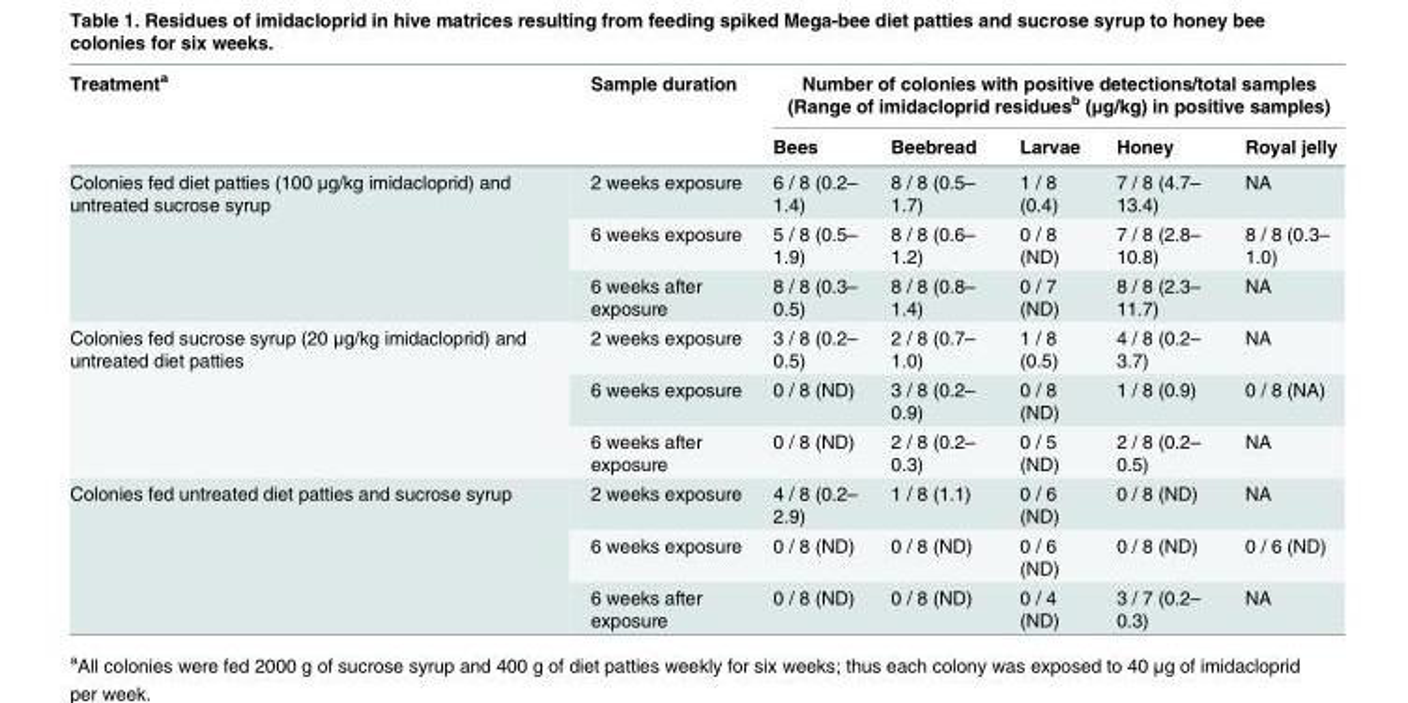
<table><thead><tr><td rowspan="2">Treatment<sup>a</sup></td><td rowspan="2">Sample duration</td><td colspan="5">Number of colonies with positive detections/total samples (Range of imidacloprid residues<sup>b</sup> (μg/kg) in positive samples)</td></tr><tr><td>Bees</td><td>Beebread</td><td>Larvae</td><td>Honey</td><td>Royal jelly</td></tr></thead><tbody><tr><td rowspan="3">Colonies fed diet patties (100 μg/kg imidacloprid) and untreated sucrose syrup</td><td>2 weeks exposure</td><td>6 / 8 (0.2– 1.4)</td><td>8 / 8 (0.5– 1.7)</td><td>1 / 8 (0.4)</td><td>7 / 8 (4.7– 13.4)</td><td>NA</td></tr><tr><td>6 weeks exposure</td><td>5 / 8 (0.5– 1.9)</td><td>8 / 8 (0.6– 1.2)</td><td>0 / 8 (ND)</td><td>7 / 8 (2.8– 10.8)</td><td>8 / 8 (0.3– 1.0)</td></tr><tr><td>6 weeks after exposure</td><td>8 / 8 (0.3– 0.5)</td><td>8 / 8 (0.8– 1.4)</td><td>0 / 7 (ND)</td><td>8 / 8 (2.3– 11.7)</td><td>NA</td></tr><tr><td rowspan="3">Colonies fed sucrose syrup (20 μg/kg imidacloprid) and untreated diet patties</td><td>2 weeks exposure</td><td>3 / 8 (0.2– 0.5)</td><td>2 / 8 (0.7– 1.0)</td><td>1 / 8 (0.5)</td><td>4 / 8 (0.2– 3.7)</td><td>NA</td></tr><tr><td>6 weeks exposure</td><td>0 / 8 (ND)</td><td>3 / 8 (0.2– 0.9)</td><td>0 / 8 (ND)</td><td>1 / 8 (0.9)</td><td>0 / 8 (NA)</td></tr><tr><td>6 weeks after exposure</td><td>0 / 8 (ND)</td><td>2 / 8 (0.2– 0.3)</td><td>0 / 5 (ND)</td><td>2 / 8 (0.2– 0.5)</td><td>NA</td></tr><tr><td rowspan="3">Colonies fed untreated diet patties and sucrose syrup</td><td>2 weeks exposure</td><td>4 / 8 (0.2– 2.9)</td><td>1 / 8 (1.1)</td><td>0 / 6 (ND)</td><td>0 / 8 (ND)</td><td>NA</td></tr><tr><td>6 weeks exposure</td><td>0 / 8 (ND)</td><td>0 / 8 (ND)</td><td>0 / 6 (ND)</td><td>0 / 8 (ND)</td><td>0 / 6 (ND)</td></tr><tr><td>6 weeks after exposure</td><td>0 / 8 (ND)</td><td>0 / 8 (ND)</td><td>0 / 4 (ND)</td><td>3 / 7 (0.2– 0.3)</td><td>NA</td></tr></tbody></table>